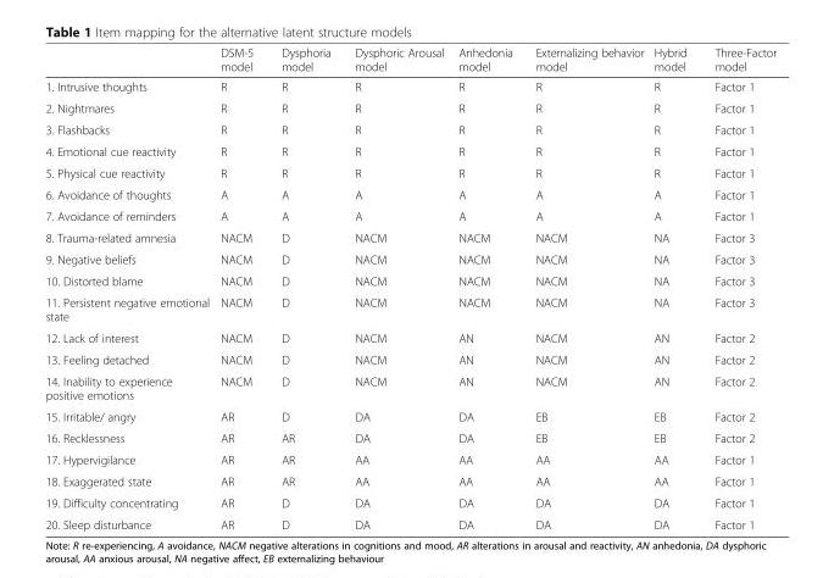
<table><thead><tr><td></td><td>DSM-5 model</td><td>Dysphoria model</td><td>Dysphoric Arousal model</td><td>Anhedonia model</td><td>Externalizing behavior model</td><td>Hybrid model</td><td>Three-Factor model</td></tr></thead><tbody><tr><td>1. Intrusive thoughts</td><td>R</td><td>R</td><td>R</td><td>R</td><td>R</td><td>R</td><td>Factor 1</td></tr><tr><td>2. Nightmares</td><td>R</td><td>R</td><td>R</td><td>R</td><td>R</td><td>R</td><td>Factor 1</td></tr><tr><td>3. Flashbacks</td><td>R</td><td>R</td><td>R</td><td>R</td><td>R</td><td>R</td><td>Factor 1</td></tr><tr><td>4. Emotional cue reactivity</td><td>R</td><td>R</td><td>R</td><td>R</td><td>R</td><td>R</td><td>Factor 1</td></tr><tr><td>5. Physical cue reactivity</td><td>R</td><td>R</td><td>R</td><td>R</td><td>R</td><td>R</td><td>Factor 1</td></tr><tr><td>6. Avoidance of thoughts</td><td>A</td><td>A</td><td>A</td><td>A</td><td>A</td><td>A</td><td>Factor 1</td></tr><tr><td>7. Avoidance of reminders</td><td>A</td><td>A</td><td>A</td><td>A</td><td>A</td><td>A</td><td>Factor 1</td></tr><tr><td>8. Trauma-related amnesia</td><td>NACM</td><td>D</td><td>NACM</td><td>NACM</td><td>NACM</td><td>NA</td><td>Factor 3</td></tr><tr><td>9. Negative beliefs</td><td>NACM</td><td>D</td><td>NACM</td><td>NACM</td><td>NACM</td><td>NA</td><td>Factor 3</td></tr><tr><td>10. Distorted blame</td><td>NACM</td><td>D</td><td>NACM</td><td>NACM</td><td>NACM</td><td>NA</td><td>Factor 3</td></tr><tr><td>11. Persistent negative emotional state</td><td>NACM</td><td>D</td><td>NACM</td><td>NACM</td><td>NACM</td><td>NA</td><td>Factor 3</td></tr><tr><td>12. Lack of interest</td><td>NACM</td><td>D</td><td>NACM</td><td>AN</td><td>NACM</td><td>AN</td><td>Factor 2</td></tr><tr><td>13. Feeling detached</td><td>NACM</td><td>D</td><td>NACM</td><td>AN</td><td>NACM</td><td>AN</td><td>Factor 2</td></tr><tr><td>14. Inability to experience positive emotions</td><td>NACM</td><td>D</td><td>NACM</td><td>AN</td><td>NACM</td><td>AN</td><td>Factor 2</td></tr><tr><td>15. Irritable/ angry</td><td>AR</td><td>D</td><td>DA</td><td>DA</td><td>EB</td><td>EB</td><td>Factor 2</td></tr><tr><td>16. Recklessness</td><td>AR</td><td>AR</td><td>DA</td><td>DA</td><td>EB</td><td>EB</td><td>Factor 2</td></tr><tr><td>17. Hypervigilance</td><td>AR</td><td>AR</td><td>AA</td><td>AA</td><td>AA</td><td>AA</td><td>Factor 1</td></tr><tr><td>18. Exaggerated state</td><td>AR</td><td>AR</td><td>AA</td><td>AA</td><td>AA</td><td>AA</td><td>Factor 1</td></tr><tr><td>19. Difficulty concentrating</td><td>AR</td><td>D</td><td>DA</td><td>DA</td><td>DA</td><td>DA</td><td>Factor 1</td></tr><tr><td>20. Sleep disturbance</td><td>AR</td><td>D</td><td>DA</td><td>DA</td><td>DA</td><td>DA</td><td>Factor 1</td></tr></tbody></table>